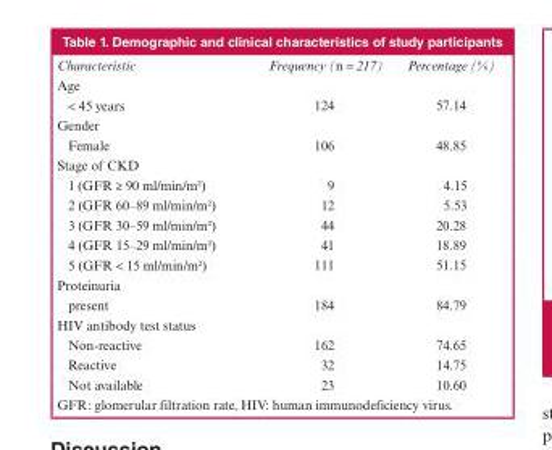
<table><thead><tr><td>Characteristic</td><td>Frequency (n = 217)</td><td>Percentage (%)</td></tr></thead><tbody><tr><td colspan="3">Age</td></tr><tr><td>&lt; 45 years</td><td>124</td><td>57.14</td></tr><tr><td colspan="3">Gender</td></tr><tr><td>Female</td><td>106</td><td>48.85</td></tr><tr><td colspan="3">Stage of CKD</td></tr><tr><td>1 (GFR ≥ 90 ml/min/m²)</td><td>9</td><td>4.15</td></tr><tr><td>2 (GFR 60–89 ml/min/m²)</td><td>12</td><td>5.53</td></tr><tr><td>3 (GFR 30–59 ml/min/m²)</td><td>44</td><td>20.28</td></tr><tr><td>4 (GFR 15–29 ml/min/m²)</td><td>41</td><td>18.89</td></tr><tr><td>5 (GFR &lt; 15 ml/min/m²)</td><td>111</td><td>51.15</td></tr><tr><td colspan="3">Proteinuria</td></tr><tr><td>present</td><td>184</td><td>84.79</td></tr><tr><td colspan="3">HIV antibody test status</td></tr><tr><td>Non-reactive</td><td>162</td><td>74.65</td></tr><tr><td>Reactive</td><td>32</td><td>14.75</td></tr><tr><td>Not available</td><td>23</td><td>10.60</td></tr></tbody></table>